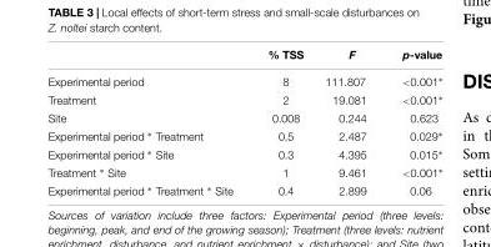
<table><thead><tr><td></td><td>% TSS</td><td>F</td><td>p-value</td></tr></thead><tbody><tr><td>Experimental period</td><td>8</td><td>111.807</td><td>&lt;0.001∗</td></tr><tr><td>Treatment</td><td>2</td><td>19.081</td><td>&lt;0.001∗</td></tr><tr><td>Site</td><td>0.008</td><td>0.244</td><td>0.623</td></tr><tr><td>Experimental period ∗ Treatment</td><td>0.5</td><td>2.487</td><td>0.029∗</td></tr><tr><td>Experimental period ∗ Site</td><td>0.3</td><td>4.395</td><td>0.015∗</td></tr><tr><td>Treatment ∗ Site</td><td>1</td><td>9.461</td><td>&lt;0.001∗</td></tr><tr><td>Experimental period ∗ Treatment ∗ Site</td><td>0.4</td><td>2.899</td><td>0.06</td></tr></tbody></table>